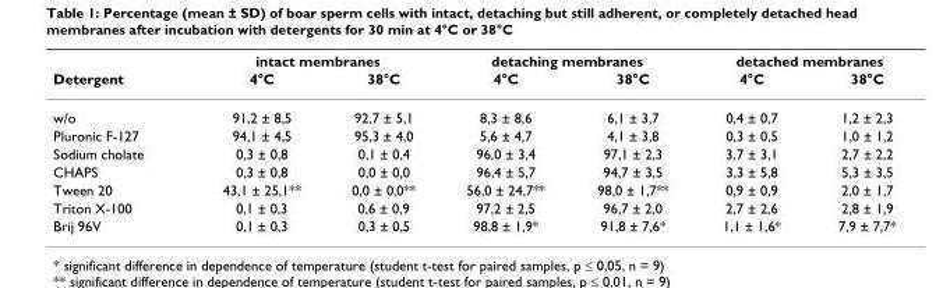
<table><thead><tr><td rowspan="2">Detergent</td><td colspan="2">intact membranes</td><td colspan="2">detaching membranes</td><td colspan="2">detached membranes</td></tr><tr><td>4°C</td><td>38°C</td><td>4°C</td><td>38°C</td><td>4°C</td><td>38°C</td></tr></thead><tbody><tr><td>w/o</td><td>91,2 ± 8,5</td><td>92,7 ± 5,1</td><td>8,3 ± 8,6</td><td>6,1 ± 3,7</td><td>0,4 ± 0,7</td><td>1,2 ± 2,3</td></tr><tr><td>Pluronic F-127</td><td>94,1 ± 4,5</td><td>95,3 ± 4,0</td><td>5,6 ± 4,7</td><td>4,1 ± 3,8</td><td>0,3 ± 0,5</td><td>1,0 ± 1,2</td></tr><tr><td>Sodium cholate</td><td>0,3 ± 0,8</td><td>0,1 ± 0,4</td><td>96,0 ± 3,4</td><td>97,1 ± 2,3</td><td>3,7 ± 3,1</td><td>2,7 ± 2,2</td></tr><tr><td>CHAPS</td><td>0,3 ± 0,8</td><td>0,0 ± 0,0</td><td>96,4 ± 5,7</td><td>94,7 ± 3,5</td><td>3,3 ± 5,8</td><td>5,3 ± 3,5</td></tr><tr><td>Tween 20</td><td>43,1 ± 25,1**</td><td>0,0 ± 0,0**</td><td>56,0 ± 24,7**</td><td>98,0 ± 1,7**</td><td>0,9 ± 0,9</td><td>2,0 ± 1,7</td></tr><tr><td>Triton X-100</td><td>0,1 ± 0,3</td><td>0,6 ± 0,9</td><td>97,2 ± 2,5</td><td>96,7 ± 2,0</td><td>2,7 ± 2,6</td><td>2,8 ± 1,9</td></tr><tr><td>Brij 96V</td><td>0,1 ± 0,3</td><td>0,3 ± 0,5</td><td>98,8 ± 1,9*</td><td>91,8 ± 7,6*</td><td>1,1 ± 1,6*</td><td>7,9 ± 7,7*</td></tr></tbody></table>